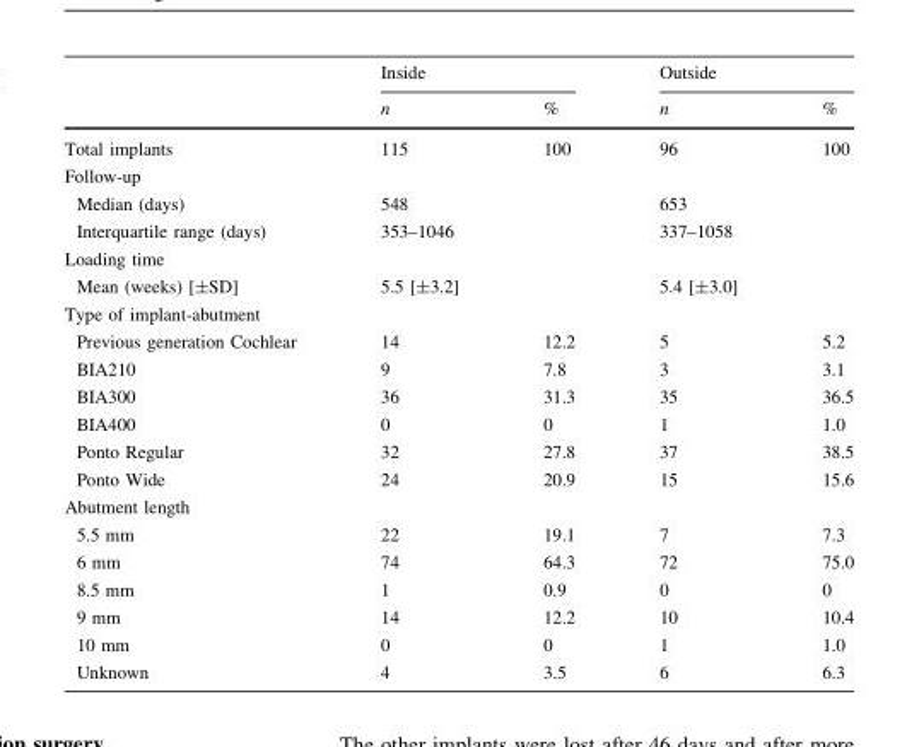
<table><thead><tr><td rowspan="2"></td><td colspan="2">Inside</td><td colspan="2">Outside</td></tr><tr><td>n</td><td>%</td><td>n</td><td>%</td></tr></thead><tbody><tr><td>Total implants</td><td>115</td><td>100</td><td>96</td><td>100</td></tr><tr><td colspan="5">Follow-up</td></tr><tr><td>Median (days)</td><td>548</td><td></td><td>653</td><td></td></tr><tr><td>Interquartile range (days)</td><td>353–1046</td><td></td><td>337–1058</td><td></td></tr><tr><td colspan="5">Loading time</td></tr><tr><td>Mean (weeks) [±SD]</td><td>5.5 [±3.2]</td><td></td><td>5.4 [±3.0]</td><td></td></tr><tr><td colspan="5">Type of implant-abutment</td></tr><tr><td>Previous generation Cochlear</td><td>14</td><td>12.2</td><td>5</td><td>5.2</td></tr><tr><td>BIA210</td><td>9</td><td>7.8</td><td>3</td><td>3.1</td></tr><tr><td>BIA300</td><td>36</td><td>31.3</td><td>35</td><td>36.5</td></tr><tr><td>BIA400</td><td>0</td><td>0</td><td>1</td><td>1.0</td></tr><tr><td>Ponto Regular</td><td>32</td><td>27.8</td><td>37</td><td>38.5</td></tr><tr><td>Ponto Wide</td><td>24</td><td>20.9</td><td>15</td><td>15.6</td></tr><tr><td colspan="5">Abutment length</td></tr><tr><td>5.5 mm</td><td>22</td><td>19.1</td><td>7</td><td>7.3</td></tr><tr><td>6 mm</td><td>74</td><td>64.3</td><td>72</td><td>75.0</td></tr><tr><td>8.5 mm</td><td>1</td><td>0.9</td><td>0</td><td>0</td></tr><tr><td>9 mm</td><td>14</td><td>12.2</td><td>10</td><td>10.4</td></tr><tr><td>10 mm</td><td>0</td><td>0</td><td>1</td><td>1.0</td></tr><tr><td>Unknown</td><td>4</td><td>3.5</td><td>6</td><td>6.3</td></tr></tbody></table>